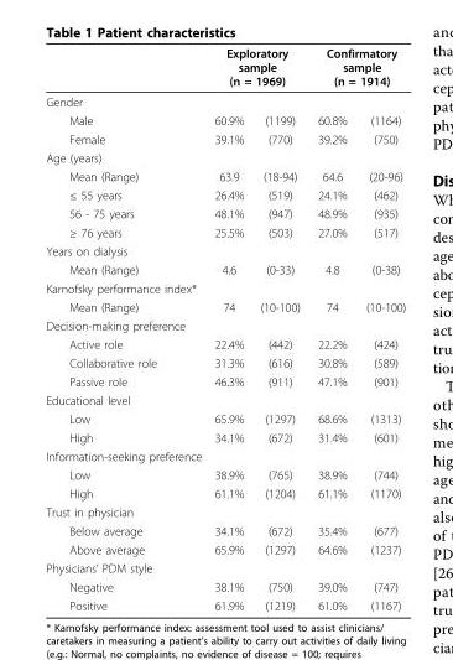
<table><thead><tr><td rowspan="2">Gender</td><td colspan="2">Exploratory sample (n = 1969)</td><td colspan="2">Confirmatory sample (n = 1914)</td></tr><tr><td></td><td></td><td></td><td></td></tr></thead><tbody><tr><td>Male</td><td>60.9%</td><td>(1199)</td><td>60.8%</td><td>(1164)</td></tr><tr><td>Female</td><td>39.1%</td><td>(770)</td><td>39.2%</td><td>(750)</td></tr><tr><td colspan="5">Age (years)</td></tr><tr><td>Mean (Range)</td><td>63.9</td><td>(18-94)</td><td>64.6</td><td>(20-96)</td></tr><tr><td>≤ 55 years</td><td>26.4%</td><td>(519)</td><td>24.1%</td><td>(462)</td></tr><tr><td>56 - 75 years</td><td>48.1%</td><td>(947)</td><td>48.9%</td><td>(935)</td></tr><tr><td>≥ 76 years</td><td>25.5%</td><td>(503)</td><td>27.0%</td><td>(517)</td></tr><tr><td colspan="5">Years on dialysis</td></tr><tr><td>Mean (Range)</td><td>4.6</td><td>(0-33)</td><td>4.8</td><td>(0-38)</td></tr><tr><td colspan="5">Karnofsky performance index*</td></tr><tr><td>Mean (Range)</td><td>74</td><td>(10-100)</td><td>74</td><td>(10-100)</td></tr><tr><td colspan="5">Decision-making preference</td></tr><tr><td>Active role</td><td>22.4%</td><td>(442)</td><td>22.2%</td><td>(424)</td></tr><tr><td>Collaborative role</td><td>31.3%</td><td>(616)</td><td>30.8%</td><td>(589)</td></tr><tr><td>Passive role</td><td>46.3%</td><td>(911)</td><td>47.1%</td><td>(901)</td></tr><tr><td colspan="5">Educational level</td></tr><tr><td>Low</td><td>65.9%</td><td>(1297)</td><td>68.6%</td><td>(1313)</td></tr><tr><td>High</td><td>34.1%</td><td>(672)</td><td>31.4%</td><td>(601)</td></tr><tr><td colspan="5">Information-seeking preference</td></tr><tr><td>Low</td><td>38.9%</td><td>(765)</td><td>38.9%</td><td>(744)</td></tr><tr><td>High</td><td>61.1%</td><td>(1204)</td><td>61.1%</td><td>(1170)</td></tr><tr><td colspan="5">Trust in physician</td></tr><tr><td>Below average</td><td>34.1%</td><td>(672)</td><td>35.4%</td><td>(677)</td></tr><tr><td>Above average</td><td>65.9%</td><td>(1297)</td><td>64.6%</td><td>(1237)</td></tr><tr><td colspan="5">Physicians’ PDM style</td></tr><tr><td>Negative</td><td>38.1%</td><td>(750)</td><td>39.0%</td><td>(747)</td></tr><tr><td>Positive</td><td>61.9%</td><td>(1219)</td><td>61.0%</td><td>(1167)</td></tr></tbody></table>